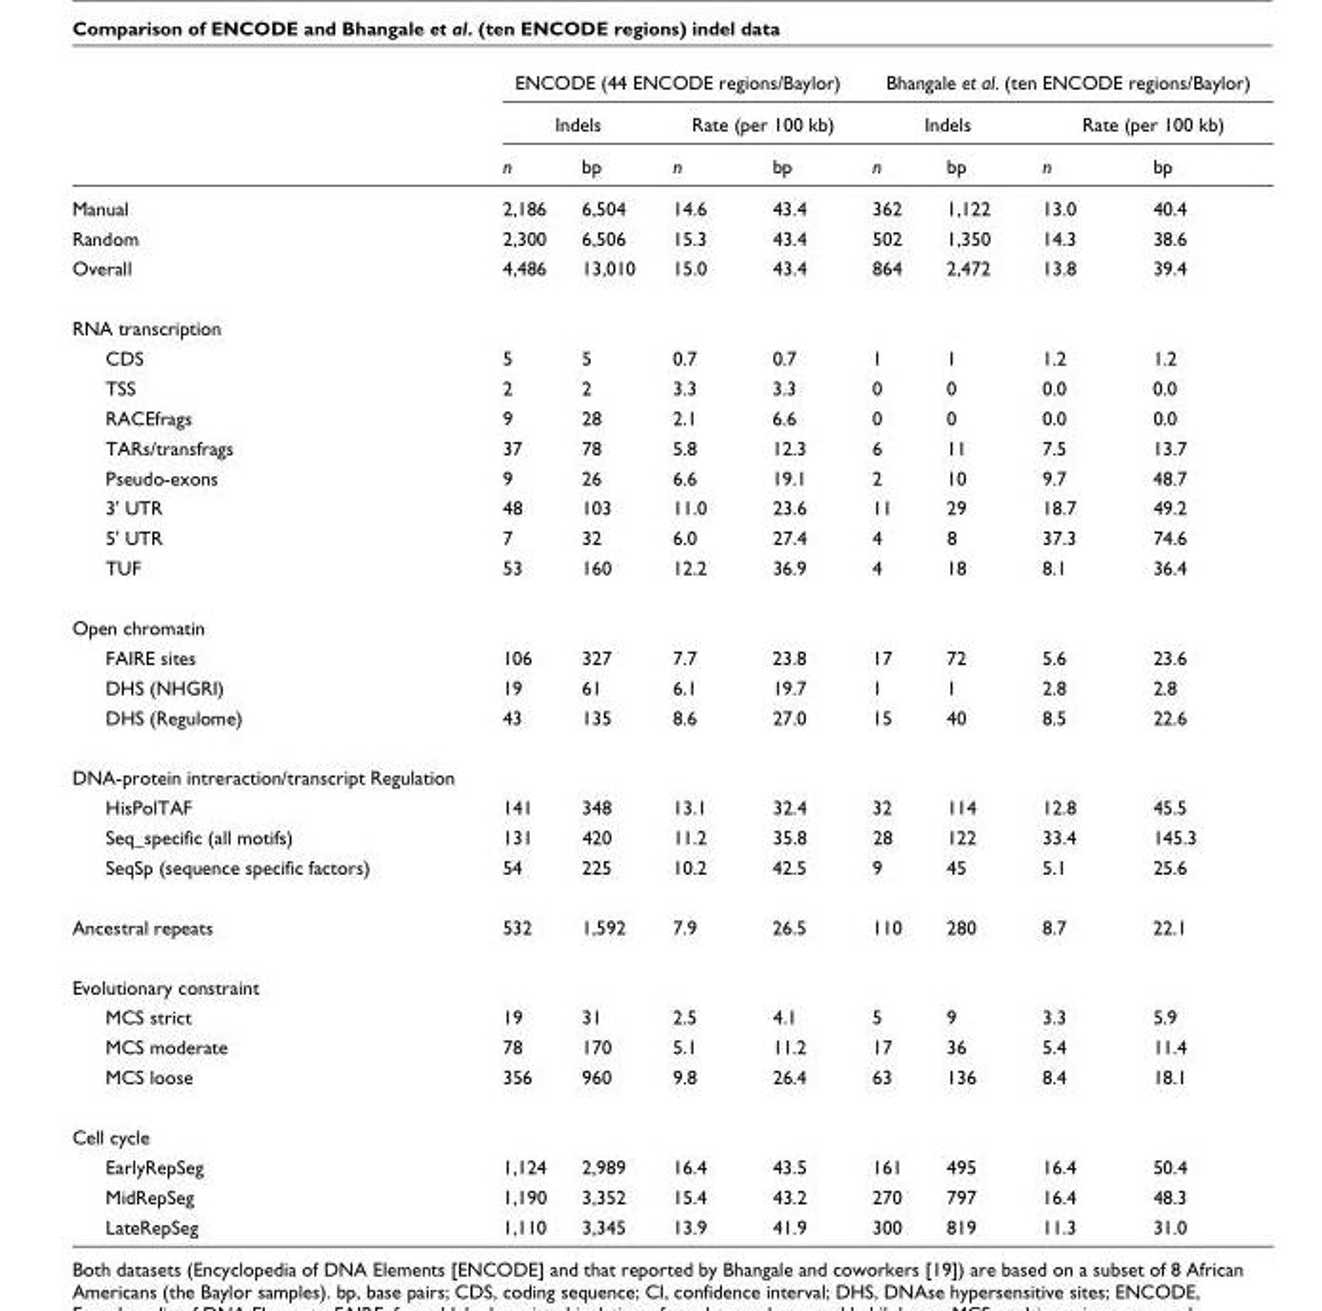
<table><thead><tr><td rowspan="3"></td><td colspan="4">ENCODE (44 ENCODE regions/Baylor)</td><td colspan="4">Bhangale et al. (ten ENCODE regions/Baylor)</td></tr><tr><td colspan="2">Indels</td><td colspan="2">Rate (per 100 kb)</td><td colspan="2">Indels</td><td colspan="2">Rate (per 100 kb)</td></tr><tr><td>n</td><td>bp</td><td>n</td><td>bp</td><td>n</td><td>bp</td><td>n</td><td>bp</td></tr></thead><tbody><tr><td>Manual</td><td>2,186</td><td>6,504</td><td>14.6</td><td>43.4</td><td>362</td><td>1,122</td><td>13.0</td><td>40.4</td></tr><tr><td>Random</td><td>2,300</td><td>6,506</td><td>15.3</td><td>43.4</td><td>502</td><td>1,350</td><td>14.3</td><td>38.6</td></tr><tr><td>Overall</td><td>4,486</td><td>13,010</td><td>15.0</td><td>43.4</td><td>864</td><td>2,472</td><td>13.8</td><td>39.4</td></tr><tr><td colspan="9">RNA transcription</td></tr><tr><td>CDS</td><td>5</td><td>5</td><td>0.7</td><td>0.7</td><td>1</td><td>1</td><td>1.2</td><td>1.2</td></tr><tr><td>TSS</td><td>2</td><td>2</td><td>3.3</td><td>3.3</td><td>0</td><td>0</td><td>0.0</td><td>0.0</td></tr><tr><td>RACEfrags</td><td>9</td><td>28</td><td>2.1</td><td>6.6</td><td>0</td><td>0</td><td>0.0</td><td>0.0</td></tr><tr><td>TARs/transfrags</td><td>37</td><td>78</td><td>5.8</td><td>12.3</td><td>6</td><td>11</td><td>7.5</td><td>13.7</td></tr><tr><td>Pseudo-exons</td><td>9</td><td>26</td><td>6.6</td><td>19.1</td><td>2</td><td>10</td><td>9.7</td><td>48.7</td></tr><tr><td>3&#x27; UTR</td><td>48</td><td>103</td><td>11.0</td><td>23.6</td><td>11</td><td>29</td><td>18.7</td><td>49.2</td></tr><tr><td>5&#x27; UTR</td><td>7</td><td>32</td><td>6.0</td><td>27.4</td><td>4</td><td>8</td><td>37.3</td><td>74.6</td></tr><tr><td>TUF</td><td>53</td><td>160</td><td>12.2</td><td>36.9</td><td>4</td><td>18</td><td>8.1</td><td>36.4</td></tr><tr><td colspan="9">Open chromatin</td></tr><tr><td>FAIRE sites</td><td>106</td><td>327</td><td>7.7</td><td>23.8</td><td>17</td><td>72</td><td>5.6</td><td>23.6</td></tr><tr><td>DHS (NHGRI)</td><td>19</td><td>61</td><td>6.1</td><td>19.7</td><td>1</td><td>1</td><td>2.8</td><td>2.8</td></tr><tr><td>DHS (Regulome)</td><td>43</td><td>135</td><td>8.6</td><td>27.0</td><td>15</td><td>40</td><td>8.5</td><td>22.6</td></tr><tr><td colspan="9">DNA-protein intreraction/transcript Regulation</td></tr><tr><td>HisPolTAF</td><td>141</td><td>348</td><td>13.1</td><td>32.4</td><td>32</td><td>114</td><td>12.8</td><td>45.5</td></tr><tr><td>Seq_specific (all motifs)</td><td>131</td><td>420</td><td>11.2</td><td>35.8</td><td>28</td><td>122</td><td>33.4</td><td>145.3</td></tr><tr><td>SeqSp (sequence specific factors)</td><td>54</td><td>225</td><td>10.2</td><td>42.5</td><td>9</td><td>45</td><td>5.1</td><td>25.6</td></tr><tr><td>Ancestral repeats</td><td>532</td><td>1,592</td><td>7.9</td><td>26.5</td><td>110</td><td>280</td><td>8.7</td><td>22.1</td></tr><tr><td colspan="9">Evolutionary constraint</td></tr><tr><td>MCS strict</td><td>19</td><td>31</td><td>2.5</td><td>4.1</td><td>5</td><td>9</td><td>3.3</td><td>5.9</td></tr><tr><td>MCS moderate</td><td>78</td><td>170</td><td>5.1</td><td>11.2</td><td>17</td><td>36</td><td>5.4</td><td>11.4</td></tr><tr><td>MCS loose</td><td>356</td><td>960</td><td>9.8</td><td>26.4</td><td>63</td><td>136</td><td>8.4</td><td>18.1</td></tr><tr><td colspan="9">Cell cycle</td></tr><tr><td>EarlyRepSeg</td><td>1,124</td><td>2,989</td><td>16.4</td><td>43.5</td><td>161</td><td>495</td><td>16.4</td><td>50.4</td></tr><tr><td>MidRepSeg</td><td>1,190</td><td>3,352</td><td>15.4</td><td>43.2</td><td>270</td><td>797</td><td>16.4</td><td>48.3</td></tr><tr><td>LateRepSeg</td><td>1,110</td><td>3,345</td><td>13.9</td><td>41.9</td><td>300</td><td>819</td><td>11.3</td><td>31.0</td></tr></tbody></table>